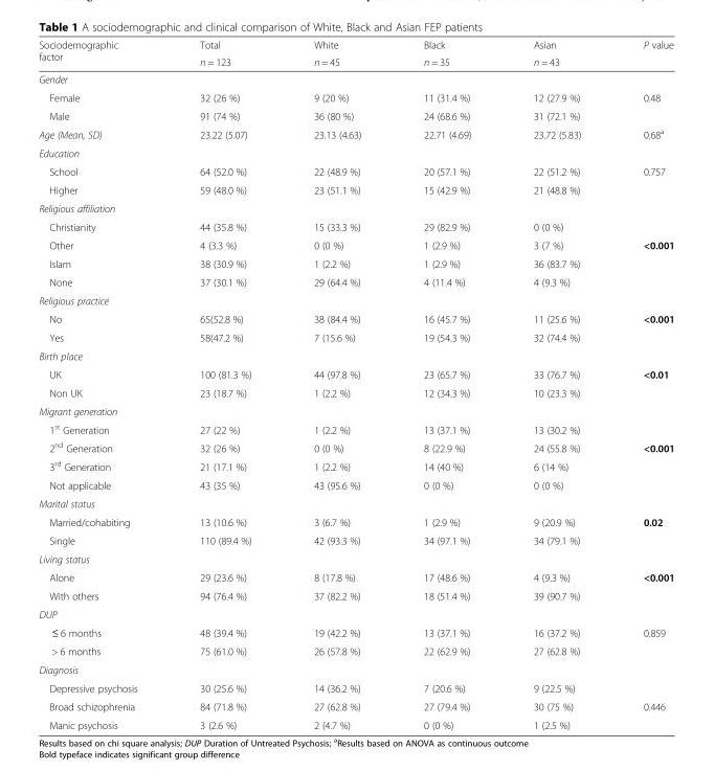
<table><thead><tr><td rowspan="2">Sociodemographic factor</td><td rowspan="2">Total n = 123</td><td rowspan="2">White n = 45</td><td rowspan="2">Black n = 35</td><td rowspan="2">Asian n = 43</td><td rowspan="2">P value</td></tr><tr></tr></thead><tbody><tr><td colspan="6">Gender</td></tr><tr><td>Female</td><td>32 (26 %)</td><td>9 (20 %)</td><td>11 (31.4 %)</td><td>12 (27.9 %)</td><td>0.48</td></tr><tr><td>Male</td><td>91 (74 %)</td><td>36 (80 %)</td><td>24 (68.6 %)</td><td>31 (72.1 %)</td><td></td></tr><tr><td>Age (Mean, SD)</td><td>23.22 (5.07)</td><td>23.13 (4.63)</td><td>22.71 (4.69)</td><td>23.72 (5.83)</td><td>0.68<sup>a</sup></td></tr><tr><td colspan="6">Education</td></tr><tr><td>School</td><td>64 (52.0 %)</td><td>22 (48.9 %)</td><td>20 (57.1 %)</td><td>22 (51.2 %)</td><td>0.757</td></tr><tr><td>Higher</td><td>59 (48.0 %)</td><td>23 (51.1 %)</td><td>15 (42.9 %)</td><td>21 (48.8 %)</td><td></td></tr><tr><td colspan="6">Religious affiliation</td></tr><tr><td>Christianity</td><td>44 (35.8 %)</td><td>15 (33.3 %)</td><td>29 (82.9 %)</td><td>0 (0 %)</td><td></td></tr><tr><td>Other</td><td>4 (3.3 %)</td><td>0 (0 %)</td><td>1 (2.9 %)</td><td>3 (7 %)</td><td>&lt;0.001</td></tr><tr><td>Islam</td><td>38 (30.9 %)</td><td>1 (2.2 %)</td><td>1 (2.9 %)</td><td>36 (83.7 %)</td><td></td></tr><tr><td>None</td><td>37 (30.1 %)</td><td>29 (64.4 %)</td><td>4 (11.4 %)</td><td>4 (9.3 %)</td><td></td></tr><tr><td colspan="6">Religious practice</td></tr><tr><td>No</td><td>65(52.8 %)</td><td>38 (84.4 %)</td><td>16 (45.7 %)</td><td>11 (25.6 %)</td><td>&lt;0.001</td></tr><tr><td>Yes</td><td>58(47.2 %)</td><td>7 (15.6 %)</td><td>19 (54.3 %)</td><td>32 (74.4 %)</td><td></td></tr><tr><td colspan="6">Birth place</td></tr><tr><td>UK</td><td>100 (81.3 %)</td><td>44 (97.8 %)</td><td>23 (65.7 %)</td><td>33 (76.7 %)</td><td>&lt;0.01</td></tr><tr><td>Non UK</td><td>23 (18.7 %)</td><td>1 (2.2 %)</td><td>12 (34.3 %)</td><td>10 (23.3 %)</td><td></td></tr><tr><td colspan="6">Migrant generation</td></tr><tr><td>1<sup>st</sup> Generation</td><td>27 (22 %)</td><td>1 (2.2 %)</td><td>13 (37.1 %)</td><td>13 (30.2 %)</td><td></td></tr><tr><td>2<sup>nd</sup> Generation</td><td>32 (26 %)</td><td>0 (0 %)</td><td>8 (22.9 %)</td><td>24 (55.8 %)</td><td>&lt;0.001</td></tr><tr><td>3<sup>rd</sup> Generation</td><td>21 (17.1 %)</td><td>1 (2.2 %)</td><td>14 (40 %)</td><td>6 (14 %)</td><td></td></tr><tr><td>Not applicable</td><td>43 (35 %)</td><td>43 (95.6 %)</td><td>0 (0 %)</td><td>0 (0 %)</td><td></td></tr><tr><td colspan="6">Marital status</td></tr><tr><td>Married/cohabiting</td><td>13 (10.6 %)</td><td>3 (6.7 %)</td><td>1 (2.9 %)</td><td>9 (20.9 %)</td><td>0.02</td></tr><tr><td>Single</td><td>110 (89.4 %)</td><td>42 (93.3 %)</td><td>34 (97.1 %)</td><td>34 (79.1 %)</td><td></td></tr><tr><td colspan="6">Living status</td></tr><tr><td>Alone</td><td>29 (23.6 %)</td><td>8 (17.8 %)</td><td>17 (48.6 %)</td><td>4 (9.3 %)</td><td>&lt;0.001</td></tr><tr><td>With others</td><td>94 (76.4 %)</td><td>37 (82.2 %)</td><td>18 (51.4 %)</td><td>39 (90.7 %)</td><td></td></tr><tr><td colspan="6">DUP</td></tr><tr><td>≤ 6 months</td><td>48 (39.4 %)</td><td>19 (42.2 %)</td><td>13 (37.1 %)</td><td>16 (37.2 %)</td><td>0.859</td></tr><tr><td>&gt; 6 months</td><td>75 (61.0 %)</td><td>26 (57.8 %)</td><td>22 (62.9 %)</td><td>27 (62.8 %)</td><td></td></tr><tr><td colspan="6">Diagnosis</td></tr><tr><td>Depressive psychosis</td><td>30 (25.6 %)</td><td>14 (36.2 %)</td><td>7 (20.6 %)</td><td>9 (22.5 %)</td><td></td></tr><tr><td>Broad schizophrenia</td><td>84 (71.8 %)</td><td>27 (62.8 %)</td><td>27 (79.4 %)</td><td>30 (75 %)</td><td>0.446</td></tr><tr><td>Manic psychosis</td><td>3 (2.6 %)</td><td>2 (4.7 %)</td><td>0 (0 %)</td><td>1 (2.5 %)</td><td></td></tr></tbody></table>